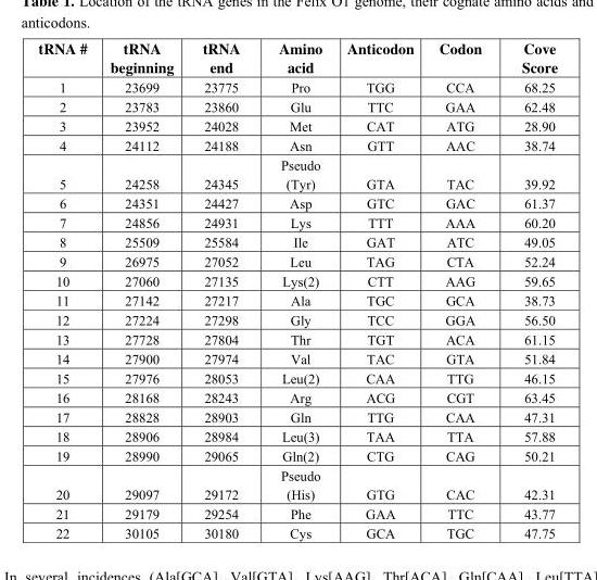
<table><thead><tr><td>tRNA #</td><td>tRNA beginning</td><td>tRNA end</td><td>Amino acid</td><td>Anticodon</td><td>Codon</td><td>Cove Score</td></tr></thead><tbody><tr><td>1</td><td>23699</td><td>23775</td><td>Pro</td><td>TGG</td><td>CCA</td><td>68.25</td></tr><tr><td>2</td><td>23783</td><td>23860</td><td>Glu</td><td>TTC</td><td>GAA</td><td>62.48</td></tr><tr><td>3</td><td>23952</td><td>24028</td><td>Met</td><td>CAT</td><td>ATG</td><td>28.90</td></tr><tr><td>4</td><td>24112</td><td>24188</td><td>Asn</td><td>GTT</td><td>AAC</td><td>38.74</td></tr><tr><td>5</td><td>24258</td><td>24345</td><td>Pseudo (Tyr)</td><td>GTA</td><td>TAC</td><td>39.92</td></tr><tr><td>6</td><td>24351</td><td>24427</td><td>Asp</td><td>GTC</td><td>GAC</td><td>61.37</td></tr><tr><td>7</td><td>24856</td><td>24931</td><td>Lys</td><td>TTT</td><td>AAA</td><td>60.20</td></tr><tr><td>8</td><td>25509</td><td>25584</td><td>Ile</td><td>GAT</td><td>ATC</td><td>49.05</td></tr><tr><td>9</td><td>26975</td><td>27052</td><td>Leu</td><td>TAG</td><td>CTA</td><td>52.24</td></tr><tr><td>10</td><td>27060</td><td>27135</td><td>Lys(2)</td><td>CTT</td><td>AAG</td><td>59.65</td></tr><tr><td>11</td><td>27142</td><td>27217</td><td>Ala</td><td>TGC</td><td>GCA</td><td>38.73</td></tr><tr><td>12</td><td>27224</td><td>27298</td><td>Gly</td><td>TCC</td><td>GGA</td><td>56.50</td></tr><tr><td>13</td><td>27728</td><td>27804</td><td>Thr</td><td>TGT</td><td>ACA</td><td>61.15</td></tr><tr><td>14</td><td>27900</td><td>27974</td><td>Val</td><td>TAC</td><td>GTA</td><td>51.84</td></tr><tr><td>15</td><td>27976</td><td>28053</td><td>Leu(2)</td><td>CAA</td><td>TTG</td><td>46.15</td></tr><tr><td>16</td><td>28168</td><td>28243</td><td>Arg</td><td>ACG</td><td>CGT</td><td>63.45</td></tr><tr><td>17</td><td>28828</td><td>28903</td><td>Gln</td><td>TTG</td><td>CAA</td><td>47.31</td></tr><tr><td>18</td><td>28906</td><td>28984</td><td>Leu(3)</td><td>TAA</td><td>TTA</td><td>57.88</td></tr><tr><td>19</td><td>28990</td><td>29065</td><td>Gln(2)</td><td>CTG</td><td>CAG</td><td>50.21</td></tr><tr><td>20</td><td>29097</td><td>29172</td><td>Pseudo (His)</td><td>GTG</td><td>CAC</td><td>42.31</td></tr><tr><td>21</td><td>29179</td><td>29254</td><td>Phe</td><td>GAA</td><td>TTC</td><td>43.77</td></tr><tr><td>22</td><td>30105</td><td>30180</td><td>Cys</td><td>GCA</td><td>TGC</td><td>47.75</td></tr></tbody></table>